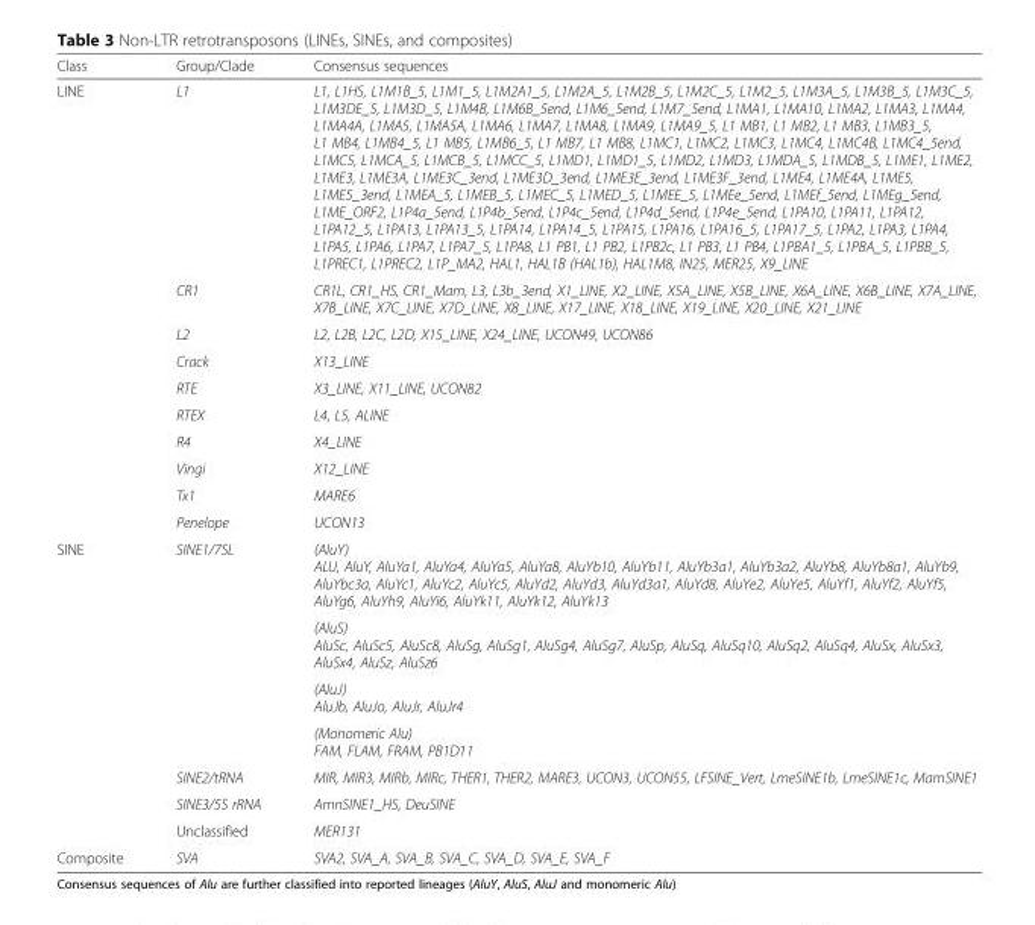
<table><thead><tr><td>Class</td><td>Group/Clade</td><td>Consensus sequences</td></tr></thead><tbody><tr><td rowspan="10">LINE</td><td>L1</td><td>L1, L1HS, L1M1B_5, L1M1_5, L1M2A1_5, L1M2A_5, L1M2B_5, L1M2C_5, L1M2_5, L1M3A_5, L1M3B_5, L1M3C_5, L1M3DE_5, L1M3D_5, L1M4B, L1M6B_5end, L1M6_5end, L1M7_5end, L1MA1, L1MA10, L1MA2, L1MA3, L1MA4, L1MA4A, L1MA5, L1MA5A, L1MA6, L1MA7, L1MA8, L1MA9, L1MA9_5, L1 MB1, L1 MB2, L1 MB3, L1MB3_5, L1 MB4, L1MB4_5, L1 MB5, L1MB6_5, L1 MB7, L1 MB8, L1MC1, L1MC2, L1MC3, L1MC4, L1MC4B, L1MC4_5end, L1MC5, L1MCA_5, L1MCB_5, L1MCC_5, L1MD1, L1MD1_5, L1MD2, L1MD3, L1MDA_5, L1MDB_5, L1ME1, L1ME2, L1ME3, L1ME3A, L1ME3C_3end, L1ME3D_3end, L1ME3E_3end, L1ME3F_3end, L1ME4, L1ME4A, L1ME5, L1ME5_3end, L1MEA_5, L1MEB_5, L1MEC_5, L1MED_5, L1MEE_5, L1MEe_5end, L1MEf_5end, L1MEg_5end, L1ME_ORF2, L1P4a_5end, L1P4b_5end, L1P4c_5end, L1P4d_5end, L1P4e_5end, L1PA10, L1PA11, L1PA12, L1PA12_5, L1PA13, L1PA13_5, L1PA14, L1PA14_5, L1PA15, L1PA16, L1PA16_5, L1PA17_5, L1PA2, L1PA3, L1PA4, L1PA5, L1PA6, L1PA7, L1PA7_5, L1PA8, L1 PB1, L1 PB2, L1PB2c, L1 PB3, L1 PB4, L1PBA1_5, L1PBA_5, L1PBB_5, L1PREC1, L1PREC2, L1P_MA2, HAL1, HAL1B (HAL1b), HAL1M8, IN25, MER25, X9_LINE</td></tr><tr><td>CR1</td><td>CR1L, CR1_HS, CR1_Mam, L3, L3b_3end, X1_LINE, X2_LINE, X5A_LINE, X5B_LINE, X6A_LINE, X6B_LINE, X7A_LINE, X7B_LINE, X7C_LINE, X7D_LINE, X8_LINE, X17_LINE, X18_LINE, X19_LINE, X20_LINE, X21_LINE</td></tr><tr><td>L2</td><td>L2, L2B, L2C, L2D, X15_LINE, X24_LINE, UCON49, UCON86</td></tr><tr><td>Crack</td><td>X13_LINE</td></tr><tr><td>RTE</td><td>X3_LINE, X11_LINE, UCON82</td></tr><tr><td>RTEX</td><td>L4, L5, ALINE</td></tr><tr><td>R4</td><td>X4_LINE</td></tr><tr><td>Vingi</td><td>X12_LINE</td></tr><tr><td>Tx1</td><td>MARE6</td></tr><tr><td>Penelope</td><td>UCON13</td></tr><tr><td rowspan="7">SINE</td><td>SINE1/7SL</td><td>(AluY) ALU, AluY, AluYa1, AluYa4, AluYa5, AluYa8, AluYb10, AluYb11, AluYb3a1, AluYb3a2, AluYb8, AluYb8a1, AluYb9, AluYbc3a, AluYc1, AluYc2, AluYc5, AluYd2, AluYd3, AluYd3a1, AluYd8, AluYe2, AluYe5, AluYf1, AluYf2, AluYf5, AluYg6, AluYh9, AluYi6, AluYk11, AluYk12, AluYk13</td></tr><tr><td></td><td>(AluS) AluSc, AluSc5, AluSc8, AluSg, AluSg1, AluSg4, AluSg7, AluSp, AluSq, AluSq10, AluSq2, AluSq4, AluSx, AluSx3, AluSx4, AluSz, AluSz6</td></tr><tr><td></td><td>(AluJ) AluJb, AluJo, AluJr, AluJr4</td></tr><tr><td></td><td>(Monomeric Alu) FAM, FLAM, FRAM, PB1D11</td></tr><tr><td>SINE2/tRNA</td><td>MIR, MIR3, MIRb, MIRc, THER1, THER2, MARE3, UCON3, UCON55, LFSINE_Vert, LmeSINE1b, LmeSINE1c, MamSINE1</td></tr><tr><td>SINE3/5S rRNA</td><td>AmnSINE1_HS, DeuSINE</td></tr><tr><td>Unclassified</td><td>MER131</td></tr><tr><td>Composite</td><td>SVA</td><td>SVA2, SVA_A, SVA_B, SVA_C, SVA_D, SVA_E, SVA_F</td></tr></tbody></table>